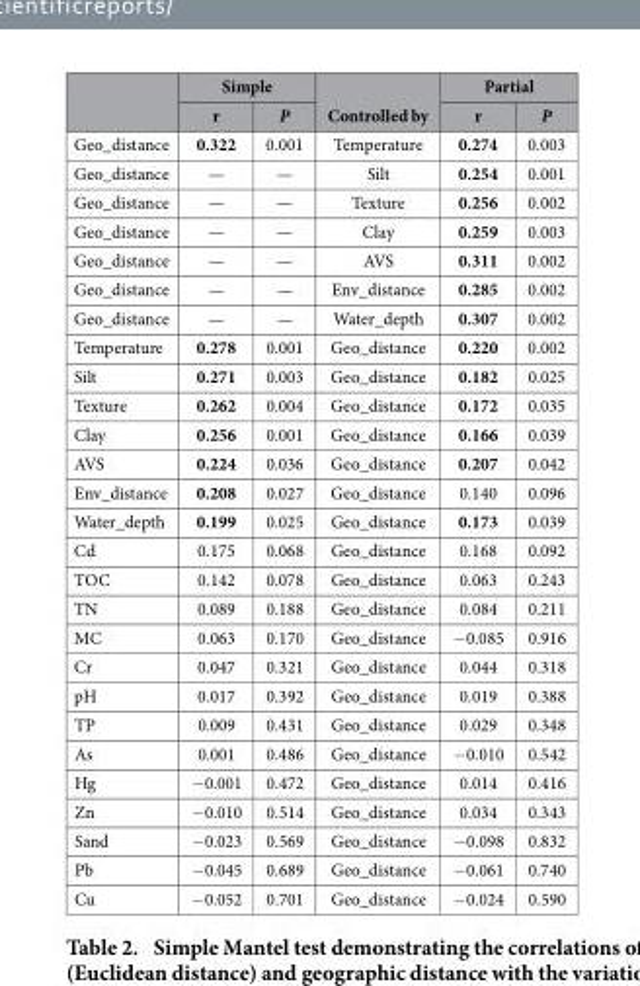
<table><thead><tr><td rowspan="2"></td><td colspan="2">Simple</td><td rowspan="2">Controlled by</td><td colspan="2">Partial</td></tr><tr><td>r</td><td>P</td><td>r</td><td>P</td></tr></thead><tbody><tr><td>Geo_distance</td><td>0.322</td><td>0.001</td><td>Temperature</td><td>0.274</td><td>0.003</td></tr><tr><td>Geo_distance</td><td>—</td><td>—</td><td>Silt</td><td>0.254</td><td>0.001</td></tr><tr><td>Geo_distance</td><td>—</td><td>—</td><td>Texture</td><td>0.256</td><td>0.002</td></tr><tr><td>Geo_distance</td><td>—</td><td>—</td><td>Clay</td><td>0.259</td><td>0.003</td></tr><tr><td>Geo_distance</td><td>—</td><td>—</td><td>AVS</td><td>0.311</td><td>0.002</td></tr><tr><td>Geo_distance</td><td>—</td><td>—</td><td>Env_distance</td><td>0.285</td><td>0.002</td></tr><tr><td>Geo_distance</td><td>—</td><td>—</td><td>Water_depth</td><td>0.307</td><td>0.002</td></tr><tr><td>Temperature</td><td>0.278</td><td>0.001</td><td>Geo_distance</td><td>0.220</td><td>0.002</td></tr><tr><td>Silt</td><td>0.271</td><td>0.003</td><td>Geo_distance</td><td>0.182</td><td>0.025</td></tr><tr><td>Texture</td><td>0.262</td><td>0.004</td><td>Geo_distance</td><td>0.172</td><td>0.035</td></tr><tr><td>Clay</td><td>0.256</td><td>0.001</td><td>Geo_distance</td><td>0.166</td><td>0.039</td></tr><tr><td>AVS</td><td>0.224</td><td>0.036</td><td>Geo_distance</td><td>0.207</td><td>0.042</td></tr><tr><td>Env_distance</td><td>0.208</td><td>0.027</td><td>Geo_distance</td><td>0.140</td><td>0.096</td></tr><tr><td>Water_depth</td><td>0.199</td><td>0.025</td><td>Geo_distance</td><td>0.173</td><td>0.039</td></tr><tr><td>Cd</td><td>0.175</td><td>0.068</td><td>Geo_distance</td><td>0.168</td><td>0.092</td></tr><tr><td>TOC</td><td>0.142</td><td>0.078</td><td>Geo_distance</td><td>0.063</td><td>0.243</td></tr><tr><td>TN</td><td>0.089</td><td>0.188</td><td>Geo_distance</td><td>0.084</td><td>0.211</td></tr><tr><td>MC</td><td>0.063</td><td>0.170</td><td>Geo_distance</td><td>− 0.085</td><td>0.916</td></tr><tr><td>Cr</td><td>0.047</td><td>0.321</td><td>Geo_distance</td><td>0.044</td><td>0.318</td></tr><tr><td>pH</td><td>0.017</td><td>0.392</td><td>Geo_distance</td><td>0.019</td><td>0.388</td></tr><tr><td>TP</td><td>0.009</td><td>0.431</td><td>Geo_distance</td><td>0.029</td><td>0.348</td></tr><tr><td>As</td><td>0.001</td><td>0.486</td><td>Geo_distance</td><td>− 0.010</td><td>0.542</td></tr><tr><td>Hg</td><td>− 0.001</td><td>0.472</td><td>Geo_distance</td><td>0.014</td><td>0.416</td></tr><tr><td>Zn</td><td>− 0.010</td><td>0.514</td><td>Geo_distance</td><td>0.034</td><td>0.343</td></tr><tr><td>Sand</td><td>− 0.023</td><td>0.569</td><td>Geo_distance</td><td>− 0.098</td><td>0.832</td></tr><tr><td>Pb</td><td>− 0.045</td><td>0.689</td><td>Geo_distance</td><td>− 0.061</td><td>0.740</td></tr><tr><td>Cu</td><td>− 0.052</td><td>0.701</td><td>Geo_distance</td><td>− 0.024</td><td>0.590</td></tr></tbody></table>